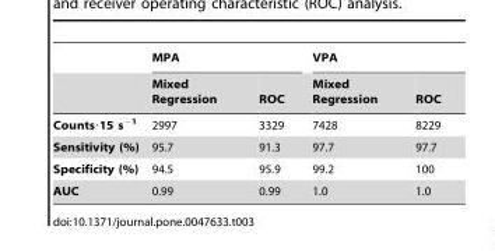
<table><thead><tr><td rowspan="2"></td><td colspan="2">MPA</td><td colspan="2">VPA</td></tr><tr><td>Mixed Regression</td><td>ROC</td><td>Mixed Regression</td><td>ROC</td></tr></thead><tbody><tr><td>Counts·15 s<sup>−1</sup></td><td>2997</td><td>3329</td><td>7428</td><td>8229</td></tr><tr><td>Sensitivity (%)</td><td>95.7</td><td>91.3</td><td>97.7</td><td>97.7</td></tr><tr><td>Specificity (%)</td><td>94.5</td><td>95.9</td><td>99.2</td><td>100</td></tr><tr><td>AUC</td><td>0.99</td><td>0.99</td><td>1.0</td><td>1.0</td></tr></tbody></table>